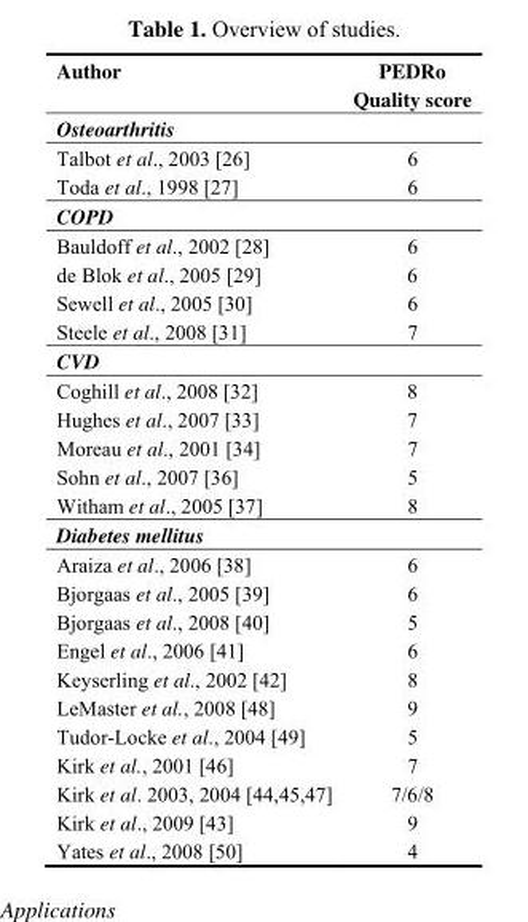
<table><thead><tr><td>Author</td><td>PEDRo Quality score</td></tr></thead><tbody><tr><td colspan="2">Osteoarthritis</td></tr><tr><td>Talbot et al., 2003 [26]</td><td>6</td></tr><tr><td>Toda et al., 1998 [27]</td><td>6</td></tr><tr><td colspan="2">COPD</td></tr><tr><td>Bauldoff et al., 2002 [28]</td><td>6</td></tr><tr><td>de Blok et al., 2005 [29]</td><td>6</td></tr><tr><td>Sewell et al., 2005 [30]</td><td>6</td></tr><tr><td>Steele et al., 2008 [31]</td><td>7</td></tr><tr><td colspan="2">CVD</td></tr><tr><td>Coghill et al., 2008 [32]</td><td>8</td></tr><tr><td>Hughes et al., 2007 [33]</td><td>7</td></tr><tr><td>Moreau et al., 2001 [34]</td><td>7</td></tr><tr><td>Sohn et al., 2007 [36]</td><td>5</td></tr><tr><td>Witham et al., 2005 [37]</td><td>8</td></tr><tr><td colspan="2">Diabetes mellitus</td></tr><tr><td>Araiza et al., 2006 [38]</td><td>6</td></tr><tr><td>Bjorgaas et al., 2005 [39]</td><td>6</td></tr><tr><td>Bjorgaas et al., 2008 [40]</td><td>5</td></tr><tr><td>Engel et al., 2006 [41]</td><td>6</td></tr><tr><td>Keyserling et al., 2002 [42]</td><td>8</td></tr><tr><td>LeMaster et al., 2008 [48]</td><td>9</td></tr><tr><td>Tudor-Locke et al., 2004 [49]</td><td>5</td></tr><tr><td>Kirk et al., 2001 [46]</td><td>7</td></tr><tr><td>Kirk et al. 2003, 2004 [44,45,47]</td><td>7/6/8</td></tr><tr><td>Kirk et al., 2009 [43]</td><td>9</td></tr><tr><td>Yates et al., 2008 [50]</td><td>4</td></tr></tbody></table>